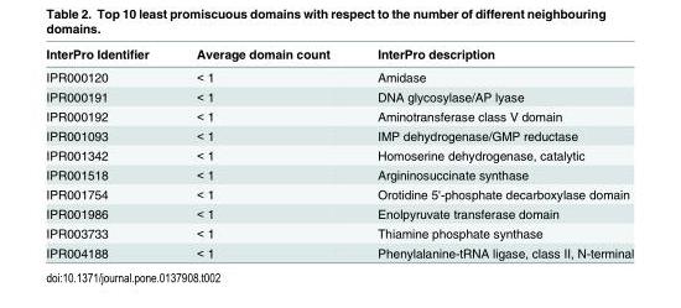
<table><thead><tr><td>InterPro Identifier</td><td>Average domain count</td><td>InterPro description</td></tr></thead><tbody><tr><td>IPR000120</td><td>&lt; 1</td><td>Amidase</td></tr><tr><td>IPR000191</td><td>&lt; 1</td><td>DNA glycosylase/AP lyase</td></tr><tr><td>IPR000192</td><td>&lt; 1</td><td>Aminotransferase class V domain</td></tr><tr><td>IPR001093</td><td>&lt; 1</td><td>IMP dehydrogenase/GMP reductase</td></tr><tr><td>IPR001342</td><td>&lt; 1</td><td>Homoserine dehydrogenase, catalytic</td></tr><tr><td>IPR001518</td><td>&lt; 1</td><td>Argininosuccinate synthase</td></tr><tr><td>IPR001754</td><td>&lt; 1</td><td>Orotidine 5&#x27;-phosphate decarboxylase domain</td></tr><tr><td>IPR001986</td><td>&lt; 1</td><td>Enolpyruvate transferase domain</td></tr><tr><td>IPR003733</td><td>&lt; 1</td><td>Thiamine phosphate synthase</td></tr><tr><td>IPR004188</td><td>&lt; 1</td><td>Phenylalanine-tRNA ligase, class II, N-terminal</td></tr></tbody></table>